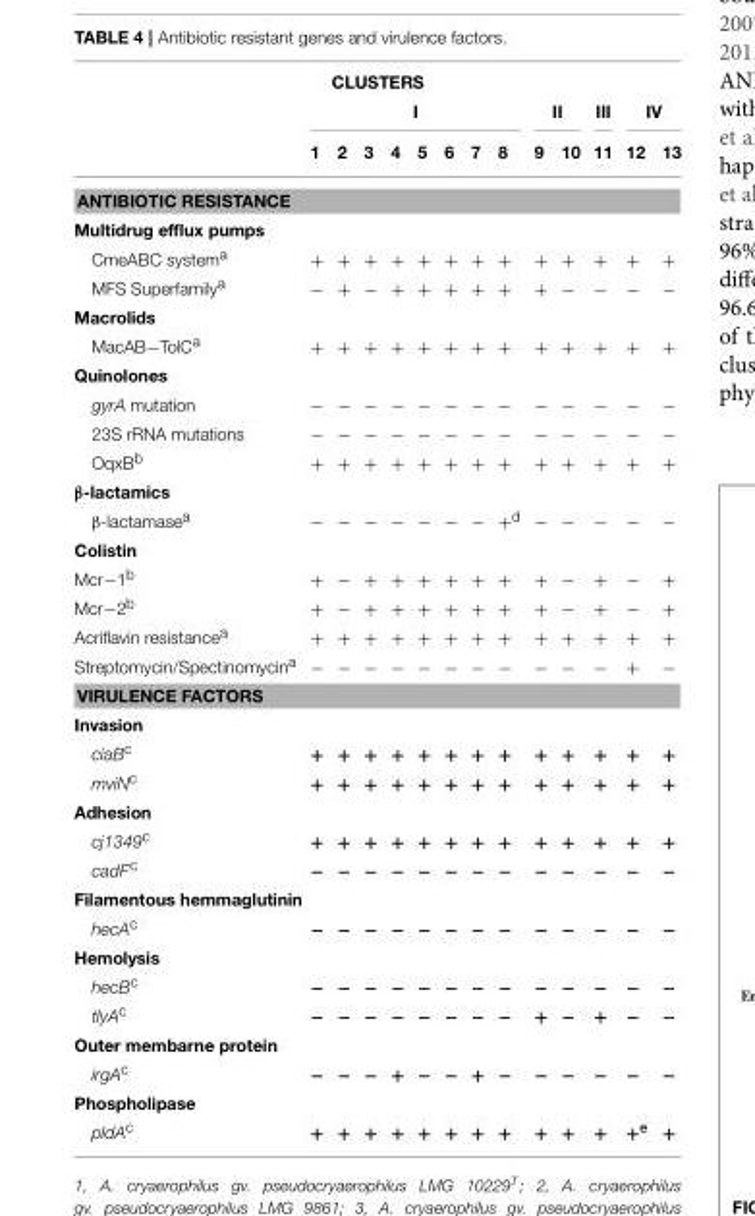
<table><thead><tr><td colspan="14">CLUSTERS</td></tr><tr><td rowspan="2"></td><td colspan="8">I</td><td colspan="2">II</td><td rowspan="2">III 11</td><td colspan="2">IV</td></tr><tr><td>1</td><td>2</td><td>3</td><td>4</td><td>5</td><td>6</td><td>7</td><td>8</td><td>9</td><td>10</td><td>12</td><td>13</td></tr></thead><tbody><tr><td colspan="14">ANTIBIOTIC RESISTANCE</td></tr><tr><td colspan="14">Multidrug efflux pumps</td></tr><tr><td>CmeABC system<sup>a</sup></td><td>+</td><td>+</td><td>+</td><td>+</td><td>+</td><td>+</td><td>+</td><td>+</td><td>+</td><td>+</td><td>+</td><td>+</td><td>+</td></tr><tr><td>MFS Superfamily<sup>a</sup></td><td>−</td><td>+</td><td>−</td><td>+</td><td>+</td><td>+</td><td>+</td><td>+</td><td>+</td><td>−</td><td>−</td><td>−</td><td>−</td></tr><tr><td colspan="14">Macrolids</td></tr><tr><td>MacAB−TolC<sup>a</sup></td><td>+</td><td>+</td><td>+</td><td>+</td><td>+</td><td>+</td><td>+</td><td>+</td><td>+</td><td>+</td><td>+</td><td>+</td><td>+</td></tr><tr><td colspan="14">Quinolones</td></tr><tr><td>gyrA mutation</td><td>−</td><td>−</td><td>−</td><td>−</td><td>−</td><td>−</td><td>−</td><td>−</td><td>−</td><td>−</td><td>−</td><td>−</td><td>−</td></tr><tr><td>23S rRNA mutations</td><td>−</td><td>−</td><td>−</td><td>−</td><td>−</td><td>−</td><td>−</td><td>−</td><td>−</td><td>−</td><td>−</td><td>−</td><td>−</td></tr><tr><td>OqxB<sup>b</sup></td><td>+</td><td>+</td><td>+</td><td>+</td><td>+</td><td>+</td><td>+</td><td>+</td><td>+</td><td>+</td><td>+</td><td>+</td><td>+</td></tr><tr><td colspan="14">β-lactamics</td></tr><tr><td>β-lactamase<sup>a</sup></td><td>−</td><td>−</td><td>−</td><td>−</td><td>−</td><td>−</td><td>−</td><td>+<sup>d</sup></td><td>−</td><td>−</td><td>−</td><td>−</td><td>−</td></tr><tr><td colspan="14">Colistin</td></tr><tr><td>Mcr−1<sup>b</sup></td><td>+</td><td>−</td><td>+</td><td>+</td><td>+</td><td>+</td><td>+</td><td>+</td><td>+</td><td>−</td><td>+</td><td>−</td><td>+</td></tr><tr><td>Mcr−2<sup>b</sup></td><td>+</td><td>−</td><td>+</td><td>+</td><td>+</td><td>+</td><td>+</td><td>+</td><td>+</td><td>−</td><td>+</td><td>−</td><td>+</td></tr><tr><td>Acriflavin resistance<sup>a</sup></td><td>+</td><td>+</td><td>+</td><td>+</td><td>+</td><td>+</td><td>+</td><td>+</td><td>+</td><td>+</td><td>+</td><td>+</td><td>+</td></tr><tr><td>Streptomycin/Spectinomycin<sup>a</sup></td><td>−</td><td>−</td><td>−</td><td>−</td><td>−</td><td>−</td><td>−</td><td>−</td><td>−</td><td>−</td><td>−</td><td>+</td><td>−</td></tr><tr><td colspan="14">VIRULENCE FACTORS</td></tr><tr><td colspan="14">Invasion</td></tr><tr><td>ciaB<sup>c</sup></td><td>+</td><td>+</td><td>+</td><td>+</td><td>+</td><td>+</td><td>+</td><td>+</td><td>+</td><td>+</td><td>+</td><td>+</td><td>+</td></tr><tr><td>mviN<sup>c</sup></td><td>+</td><td>+</td><td>+</td><td>+</td><td>+</td><td>+</td><td>+</td><td>+</td><td>+</td><td>+</td><td>+</td><td>+</td><td>+</td></tr><tr><td colspan="14">Adhesion</td></tr><tr><td>cj1349<sup>c</sup></td><td>+</td><td>+</td><td>+</td><td>+</td><td>+</td><td>+</td><td>+</td><td>+</td><td>+</td><td>+</td><td>+</td><td>+</td><td>+</td></tr><tr><td>cadF<sup>c</sup></td><td>−</td><td>−</td><td>−</td><td>−</td><td>−</td><td>−</td><td>−</td><td>−</td><td>−</td><td>−</td><td>−</td><td>−</td><td>−</td></tr><tr><td colspan="14">Filamentous hemmaglutinin</td></tr><tr><td>hecA<sup>c</sup></td><td>−</td><td>−</td><td>−</td><td>−</td><td>−</td><td>−</td><td>−</td><td>−</td><td>−</td><td>−</td><td>−</td><td>−</td><td>−</td></tr><tr><td colspan="14">Hemolysis</td></tr><tr><td>hecB<sup>c</sup></td><td>−</td><td>−</td><td>−</td><td>−</td><td>−</td><td>−</td><td>−</td><td>−</td><td>−</td><td>−</td><td>−</td><td>−</td><td>−</td></tr><tr><td>tlyA<sup>c</sup></td><td>−</td><td>−</td><td>−</td><td>−</td><td>−</td><td>−</td><td>−</td><td>−</td><td>+</td><td>−</td><td>+</td><td>−</td><td>−</td></tr><tr><td colspan="14">Outer membarne protein</td></tr><tr><td>irgA<sup>c</sup></td><td>−</td><td>−</td><td>−</td><td>+</td><td>−</td><td>−</td><td>+</td><td>−</td><td>−</td><td>−</td><td>−</td><td>−</td><td>−</td></tr><tr><td colspan="14">Phospholipase</td></tr><tr><td>pldA<sup>c</sup></td><td>+</td><td>+</td><td>+</td><td>+</td><td>+</td><td>+</td><td>+</td><td>+</td><td>+</td><td>+</td><td>+</td><td>+<sup>e</sup></td><td>+</td></tr></tbody></table>